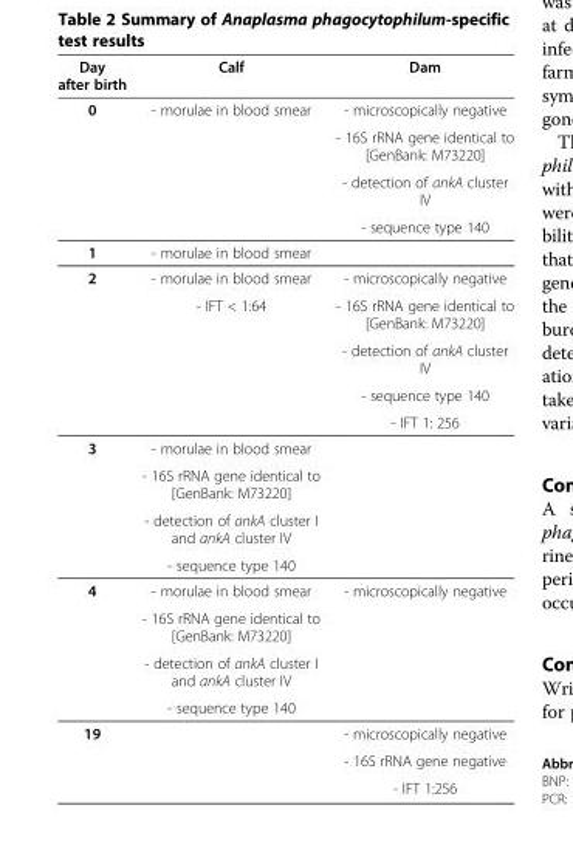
<table><thead><tr><td>Day after birth</td><td>Calf</td><td>Dam</td></tr></thead><tbody><tr><td rowspan="4">0</td><td>- morulae in blood smear</td><td>- microscopically negative</td></tr><tr><td></td><td>- 16S rRNA gene identical to [GenBank: M73220]</td></tr><tr><td></td><td>- detection of ankA cluster IV</td></tr><tr><td></td><td>- sequence type 140</td></tr><tr><td>1</td><td>- morulae in blood smear</td><td></td></tr><tr><td rowspan="5">2</td><td>- morulae in blood smear</td><td>- microscopically negative</td></tr><tr><td>- IFT &lt; 1:64</td><td>- 16S rRNA gene identical to [GenBank: M73220]</td></tr><tr><td></td><td>- detection of ankA cluster IV</td></tr><tr><td></td><td>- sequence type 140</td></tr><tr><td></td><td>- IFT 1: 256</td></tr><tr><td rowspan="4">3</td><td>- morulae in blood smear</td><td></td></tr><tr><td>- 16S rRNA gene identical to [GenBank: M73220]</td><td></td></tr><tr><td>- detection of ankA cluster I and ankA cluster IV</td><td></td></tr><tr><td>- sequence type 140</td><td></td></tr><tr><td rowspan="4">4</td><td>- morulae in blood smear</td><td>- microscopically negative</td></tr><tr><td>- 16S rRNA gene identical to [GenBank: M73220]</td><td></td></tr><tr><td>- detection of ankA cluster I and ankA cluster IV</td><td></td></tr><tr><td>- sequence type 140</td><td></td></tr><tr><td rowspan="3">19</td><td></td><td>- microscopically negative</td></tr><tr><td></td><td>- 16S rRNA gene negative</td></tr><tr><td></td><td>- IFT 1:256</td></tr></tbody></table>